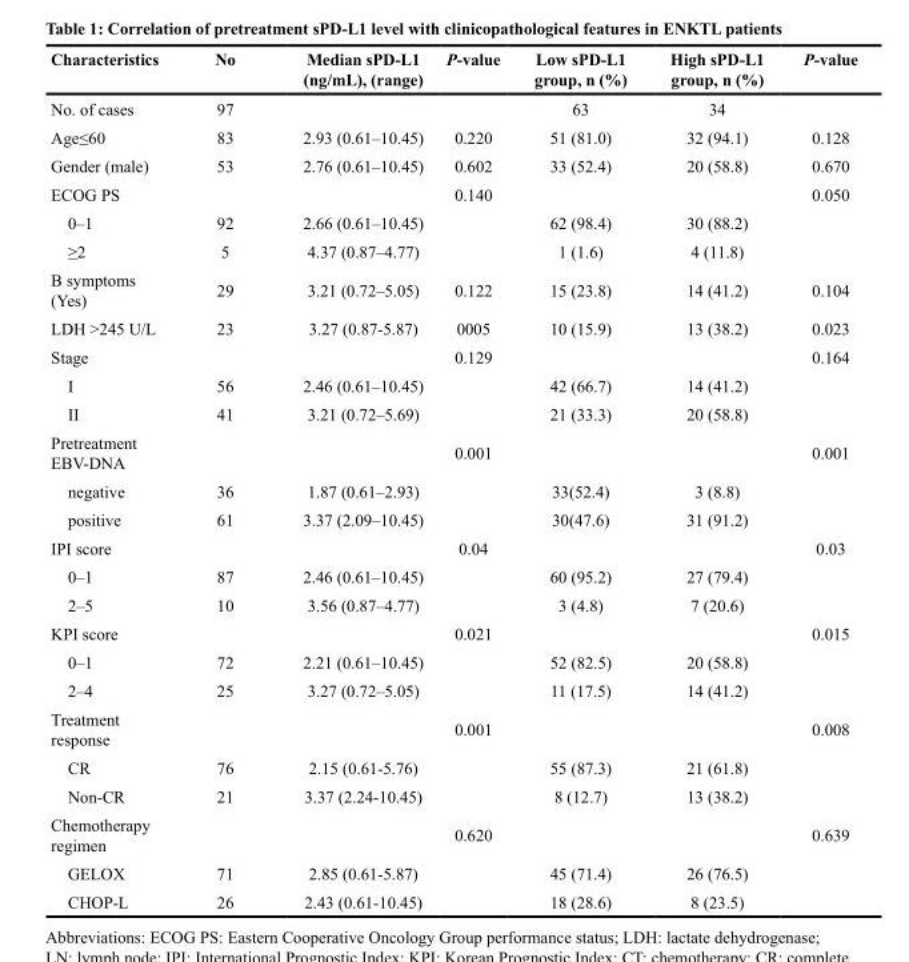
<table><thead><tr><td>Characteristics</td><td>No</td><td>Median sPD-L1 (ng/mL), (range)</td><td>P-value</td><td>Low sPD-L1 group, n (%)</td><td>High sPD-L1 group, n (%)</td><td>P-value</td></tr></thead><tbody><tr><td>No. of cases</td><td>97</td><td></td><td></td><td>63</td><td>34</td><td></td></tr><tr><td>Age≤60</td><td>83</td><td>2.93 (0.61–10.45)</td><td>0.220</td><td>51 (81.0)</td><td>32 (94.1)</td><td>0.128</td></tr><tr><td>Gender (male)</td><td>53</td><td>2.76 (0.61–10.45)</td><td>0.602</td><td>33 (52.4)</td><td>20 (58.8)</td><td>0.670</td></tr><tr><td>ECOG PS</td><td></td><td></td><td>0.140</td><td></td><td></td><td>0.050</td></tr><tr><td>0–1</td><td>92</td><td>2.66 (0.61–10.45)</td><td></td><td>62 (98.4)</td><td>30 (88.2)</td><td></td></tr><tr><td>≥2</td><td>5</td><td>4.37 (0.87–4.77)</td><td></td><td>1 (1.6)</td><td>4 (11.8)</td><td></td></tr><tr><td>B symptoms (Yes)</td><td>29</td><td>3.21 (0.72–5.05)</td><td>0.122</td><td>15 (23.8)</td><td>14 (41.2)</td><td>0.104</td></tr><tr><td>LDH &gt;245 U/L</td><td>23</td><td>3.27 (0.87-5.87)</td><td>0005</td><td>10 (15.9)</td><td>13 (38.2)</td><td>0.023</td></tr><tr><td>Stage</td><td></td><td></td><td>0.129</td><td></td><td></td><td>0.164</td></tr><tr><td>I</td><td>56</td><td>2.46 (0.61–10.45)</td><td></td><td>42 (66.7)</td><td>14 (41.2)</td><td></td></tr><tr><td>II</td><td>41</td><td>3.21 (0.72–5.69)</td><td></td><td>21 (33.3)</td><td>20 (58.8)</td><td></td></tr><tr><td>Pretreatment EBV-DNA</td><td></td><td></td><td>0.001</td><td></td><td></td><td>0.001</td></tr><tr><td>negative</td><td>36</td><td>1.87 (0.61–2.93)</td><td></td><td>33(52.4)</td><td>3 (8.8)</td><td></td></tr><tr><td>positive</td><td>61</td><td>3.37 (2.09–10.45)</td><td></td><td>30(47.6)</td><td>31 (91.2)</td><td></td></tr><tr><td>IPI score</td><td></td><td></td><td>0.04</td><td></td><td></td><td>0.03</td></tr><tr><td>0–1</td><td>87</td><td>2.46 (0.61–10.45)</td><td></td><td>60 (95.2)</td><td>27 (79.4)</td><td></td></tr><tr><td>2–5</td><td>10</td><td>3.56 (0.87–4.77)</td><td></td><td>3 (4.8)</td><td>7 (20.6)</td><td></td></tr><tr><td>KPI score</td><td></td><td></td><td>0.021</td><td></td><td></td><td>0.015</td></tr><tr><td>0–1</td><td>72</td><td>2.21 (0.61–10.45)</td><td></td><td>52 (82.5)</td><td>20 (58.8)</td><td></td></tr><tr><td>2–4</td><td>25</td><td>3.27 (0.72–5.05)</td><td></td><td>11 (17.5)</td><td>14 (41.2)</td><td></td></tr><tr><td>Treatment response</td><td></td><td></td><td>0.001</td><td></td><td></td><td>0.008</td></tr><tr><td>CR</td><td>76</td><td>2.15 (0.61-5.76)</td><td></td><td>55 (87.3)</td><td>21 (61.8)</td><td></td></tr><tr><td>Non-CR</td><td>21</td><td>3.37 (2.24-10.45)</td><td></td><td>8 (12.7)</td><td>13 (38.2)</td><td></td></tr><tr><td>Chemotherapy regimen</td><td></td><td></td><td>0.620</td><td></td><td></td><td>0.639</td></tr><tr><td>GELOX</td><td>71</td><td>2.85 (0.61-5.87)</td><td></td><td>45 (71.4)</td><td>26 (76.5)</td><td></td></tr><tr><td>CHOP-L</td><td>26</td><td>2.43 (0.61-10.45)</td><td></td><td>18 (28.6)</td><td>8 (23.5)</td><td></td></tr></tbody></table>